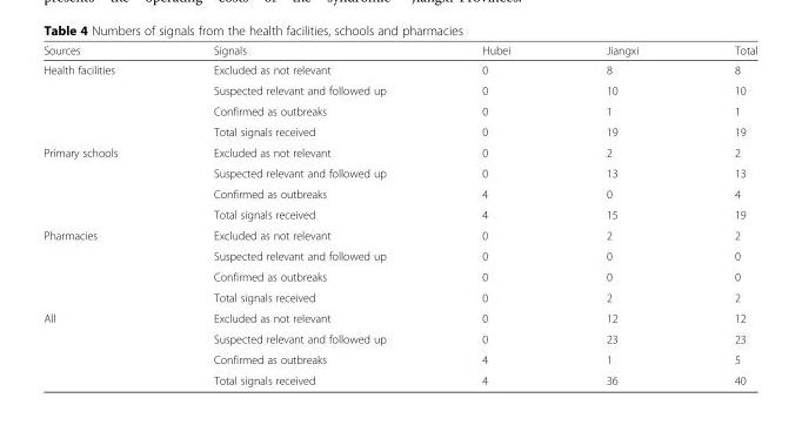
<table><thead><tr><td>Sources</td><td>Signals</td><td>Hubei</td><td>Jiangxi</td><td>Total</td></tr></thead><tbody><tr><td rowspan="4">Health facilities</td><td>Excluded as not relevant</td><td>0</td><td>8</td><td>8</td></tr><tr><td>Suspected relevant and followed up</td><td>0</td><td>10</td><td>10</td></tr><tr><td>Confirmed as outbreaks</td><td>0</td><td>1</td><td>1</td></tr><tr><td>Total signals received</td><td>0</td><td>19</td><td>19</td></tr><tr><td rowspan="4">Primary schools</td><td>Excluded as not relevant</td><td>0</td><td>2</td><td>2</td></tr><tr><td>Suspected relevant and followed up</td><td>0</td><td>13</td><td>13</td></tr><tr><td>Confirmed as outbreaks</td><td>4</td><td>0</td><td>4</td></tr><tr><td>Total signals received</td><td>4</td><td>15</td><td>19</td></tr><tr><td rowspan="4">Pharmacies</td><td>Excluded as not relevant</td><td>0</td><td>2</td><td>2</td></tr><tr><td>Suspected relevant and followed up</td><td>0</td><td>0</td><td>0</td></tr><tr><td>Confirmed as outbreaks</td><td>0</td><td>0</td><td>0</td></tr><tr><td>Total signals received</td><td>0</td><td>2</td><td>2</td></tr><tr><td rowspan="4">All</td><td>Excluded as not relevant</td><td>0</td><td>12</td><td>12</td></tr><tr><td>Suspected relevant and followed up</td><td>0</td><td>23</td><td>23</td></tr><tr><td>Confirmed as outbreaks</td><td>4</td><td>1</td><td>5</td></tr><tr><td>Total signals received</td><td>4</td><td>36</td><td>40</td></tr></tbody></table>